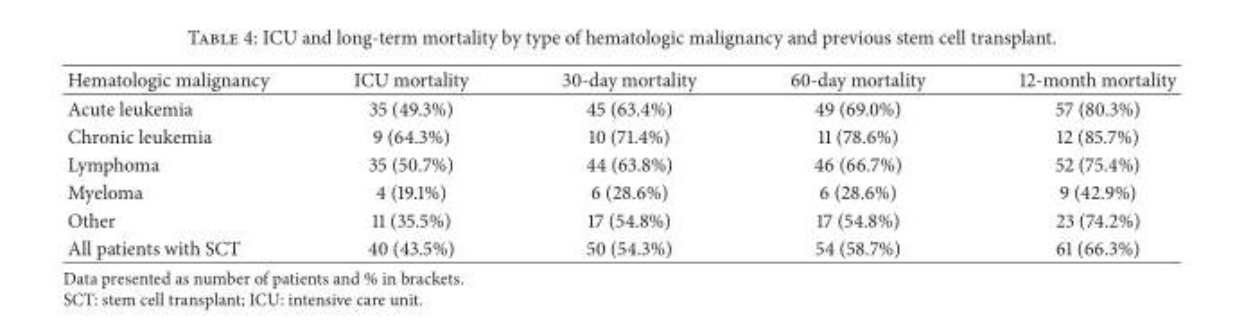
<table><thead><tr><td>Hematologic malignancy</td><td>ICU mortality</td><td>30-day mortality</td><td>60-day mortality</td><td>12-month mortality</td></tr></thead><tbody><tr><td>Acute leukemia</td><td>35 (49.3%)</td><td>45 (63.4%)</td><td>49 (69.0%)</td><td>57 (80.3%)</td></tr><tr><td>Chronic leukemia</td><td>9 (64.3%)</td><td>10 (71.4%)</td><td>11 (78.6%)</td><td>12 (85.7%)</td></tr><tr><td>Lymphoma</td><td>35 (50.7%)</td><td>44 (63.8%)</td><td>46 (66.7%)</td><td>52 (75.4%)</td></tr><tr><td>Myeloma</td><td>4 (19.1%)</td><td>6 (28.6%)</td><td>6 (28.6%)</td><td>9 (42.9%)</td></tr><tr><td>Other</td><td>11 (35.5%)</td><td>17 (54.8%)</td><td>17 (54.8%)</td><td>23 (74.2%)</td></tr><tr><td>All patients with SCT</td><td>40 (43.5%)</td><td>50 (54.3%)</td><td>54 (58.7%)</td><td>61 (66.3%)</td></tr></tbody></table>